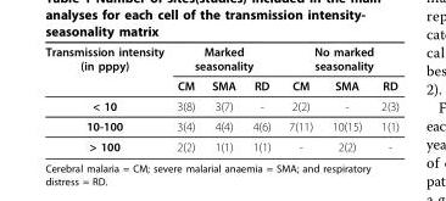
<table><thead><tr><td rowspan="2">Transmission intensity (in pppy)</td><td colspan="3">Marked seasonality</td><td colspan="3">No marked seasonality</td></tr><tr><td>CM</td><td>SMA</td><td>RD</td><td>CM</td><td>SMA</td><td>RD</td></tr></thead><tbody><tr><td>&lt; 10</td><td>3(8)</td><td>3(7)</td><td>-</td><td>2(2)</td><td>-</td><td>2(3)</td></tr><tr><td>10-100</td><td>3(4)</td><td>4(4)</td><td>4(6)</td><td>7(11)</td><td>10(15)</td><td>1(1)</td></tr><tr><td>&gt; 100</td><td>2(2)</td><td>1(1)</td><td>1(1)</td><td>-</td><td>2(2)</td><td>-</td></tr></tbody></table>